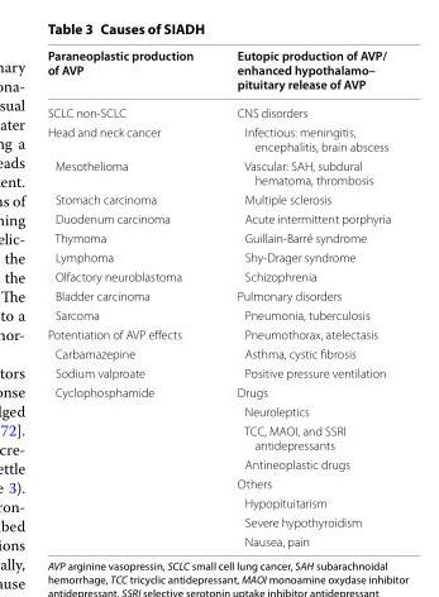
<table><thead><tr><td>Paraneoplastic production of AVP</td><td>Eutopic production of AVP/ enhanced hypothalamo– pituitary release of AVP</td></tr></thead><tbody><tr><td>SCLC non‑SCLC</td><td>CNS disorders</td></tr><tr><td>Head and neck cancer</td><td>Infectious: meningitis, encephalitis, brain abscess</td></tr><tr><td>Mesothelioma</td><td>Vascular: SAH, subdural hematoma, thrombosis</td></tr><tr><td>Stomach carcinoma</td><td>Multiple sclerosis</td></tr><tr><td>Duodenum carcinoma</td><td>Acute intermittent porphyria</td></tr><tr><td>Thymoma</td><td>Guillain‑Barré syndrome</td></tr><tr><td>Lymphoma</td><td>Shy‑Drager syndrome</td></tr><tr><td>Olfactory neuroblastoma</td><td>Schizophrenia</td></tr><tr><td>Bladder carcinoma</td><td>Pulmonary disorders</td></tr><tr><td>Sarcoma</td><td>Pneumonia, tuberculosis</td></tr><tr><td>Potentiation of AVP effects</td><td>Pneumothorax, atelectasis</td></tr><tr><td>Carbamazepine</td><td>Asthma, cystic fibrosis</td></tr><tr><td>Sodium valproate</td><td>Positive pressure ventilation</td></tr><tr><td rowspan="8">Cyclophosphamide</td><td>Drugs</td></tr><tr><td>Neuroleptics</td></tr><tr><td>TCC, MAOI, and SSRI antidepressants</td></tr><tr><td>Antineoplastic drugs</td></tr><tr><td>Others</td></tr><tr><td>Hypopituitarism</td></tr><tr><td>Severe hypothyroidism</td></tr><tr><td>Nausea, pain</td></tr></tbody></table>